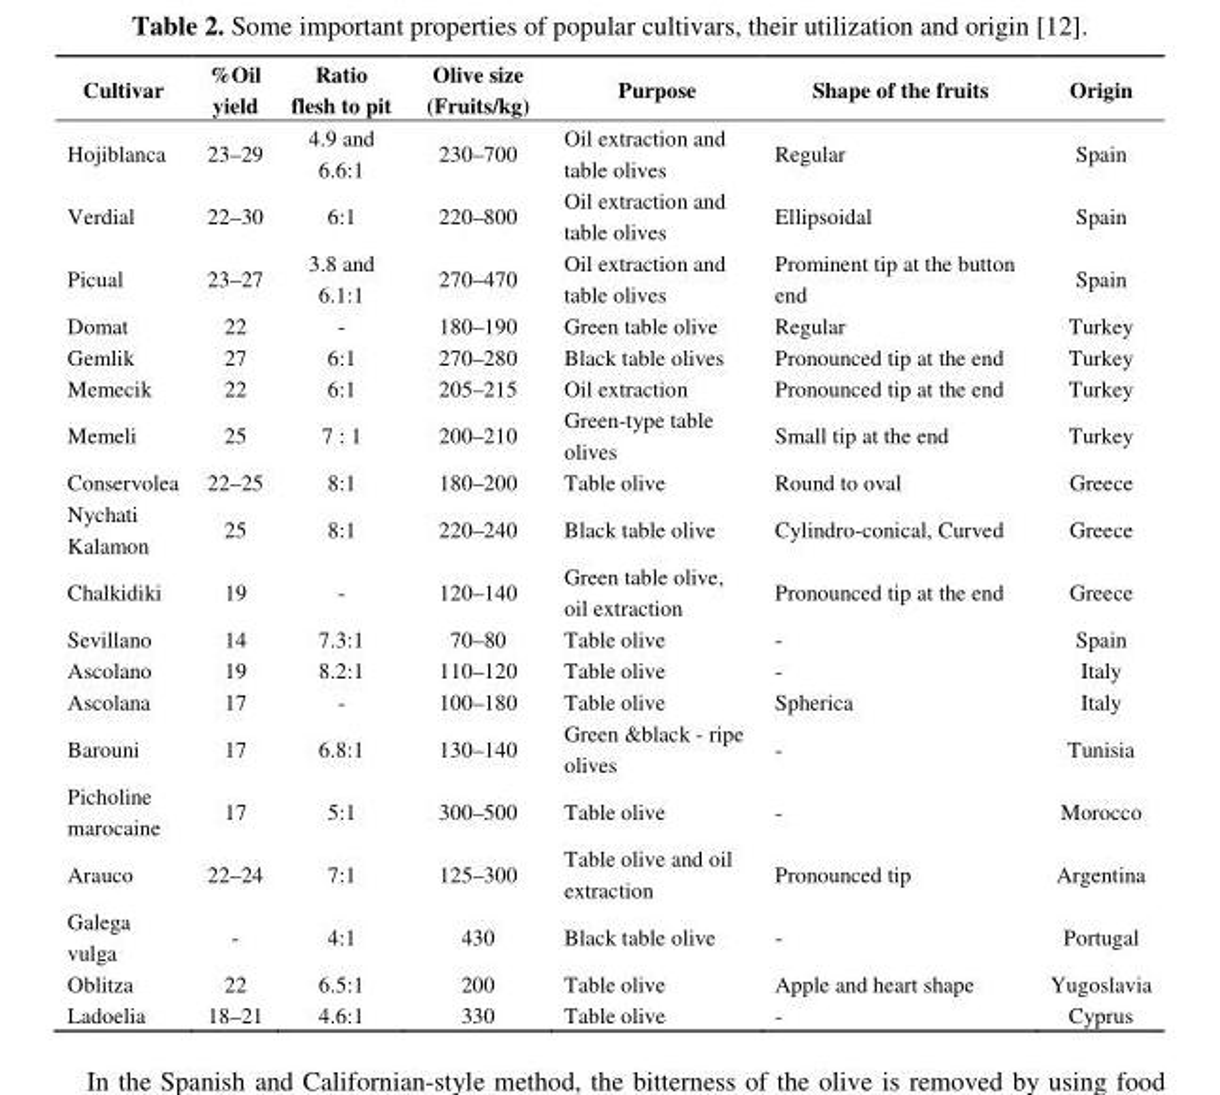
<table><thead><tr><td>Cultivar</td><td>%Oil yield</td><td>Ratio flesh to pit</td><td>Olive size (Fruits/kg)</td><td>Purpose</td><td>Shape of the fruits</td><td>Origin</td></tr></thead><tbody><tr><td>Hojiblanca</td><td>23–29</td><td>4.9 and 6.6:1</td><td>230–700</td><td>Oil extraction and table olives</td><td>Regular</td><td>Spain</td></tr><tr><td>Verdial</td><td>22–30</td><td>6:1</td><td>220–800</td><td>Oil extraction and table olives</td><td>Ellipsoidal</td><td>Spain</td></tr><tr><td>Picual</td><td>23–27</td><td>3.8 and 6.1:1</td><td>270–470</td><td>Oil extraction and table olives</td><td>Prominent tip at the button end</td><td>Spain</td></tr><tr><td>Domat</td><td>22</td><td>-</td><td>180–190</td><td>Green table olive</td><td>Regular</td><td>Turkey</td></tr><tr><td>Gemlik</td><td>27</td><td>6:1</td><td>270–280</td><td>Black table olives</td><td>Pronounced tip at the end</td><td>Turkey</td></tr><tr><td>Memecik</td><td>22</td><td>6:1</td><td>205–215</td><td>Oil extraction</td><td>Pronounced tip at the end</td><td>Turkey</td></tr><tr><td>Memeli</td><td>25</td><td>7 : 1</td><td>200–210</td><td>Green-type table olives</td><td>Small tip at the end</td><td>Turkey</td></tr><tr><td>Conservolea</td><td>22–25</td><td>8:1</td><td>180–200</td><td>Table olive</td><td>Round to oval</td><td>Greece</td></tr><tr><td>Nychati Kalamon</td><td>25</td><td>8:1</td><td>220–240</td><td>Black table olive</td><td>Cylindro-conical, Curved</td><td>Greece</td></tr><tr><td>Chalkidiki</td><td>19</td><td>-</td><td>120–140</td><td>Green table olive, oil extraction</td><td>Pronounced tip at the end</td><td>Greece</td></tr><tr><td>Sevillano</td><td>14</td><td>7.3:1</td><td>70–80</td><td>Table olive</td><td>-</td><td>Spain</td></tr><tr><td>Ascolano</td><td>19</td><td>8.2:1</td><td>110–120</td><td>Table olive</td><td>-</td><td>Italy</td></tr><tr><td>Ascolana</td><td>17</td><td>-</td><td>100–180</td><td>Table olive</td><td>Spherica</td><td>Italy</td></tr><tr><td>Barouni</td><td>17</td><td>6.8:1</td><td>130–140</td><td>Green &amp;black - ripe olives</td><td>-</td><td>Tunisia</td></tr><tr><td>Picholine marocaine</td><td>17</td><td>5:1</td><td>300–500</td><td>Table olive</td><td>-</td><td>Morocco</td></tr><tr><td>Arauco</td><td>22–24</td><td>7:1</td><td>125–300</td><td>Table olive and oil extraction</td><td>Pronounced tip</td><td>Argentina</td></tr><tr><td>Galega vulga</td><td>-</td><td>4:1</td><td>430</td><td>Black table olive</td><td>-</td><td>Portugal</td></tr><tr><td>Oblitza</td><td>22</td><td>6.5:1</td><td>200</td><td>Table olive</td><td>Apple and heart shape</td><td>Yugoslavia</td></tr><tr><td>Ladoelia</td><td>18–21</td><td>4.6:1</td><td>330</td><td>Table olive</td><td>-</td><td>Cyprus</td></tr></tbody></table>